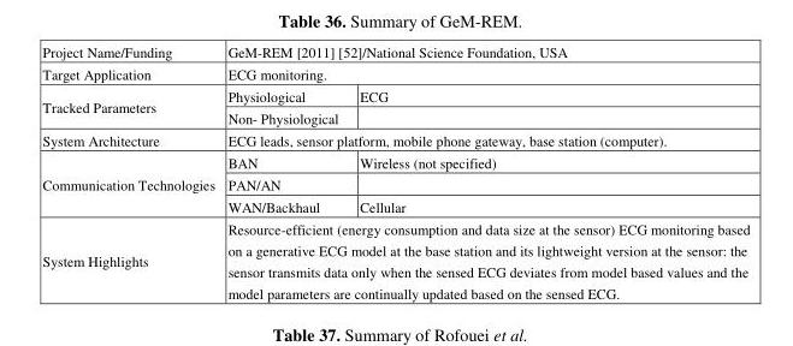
<table><tbody><tr><td>Project Name/Funding</td><td colspan="2">GeM-REM [2011] [52]/National Science Foundation, USA</td></tr><tr><td>Target Application</td><td colspan="2">ECG monitoring.</td></tr><tr><td rowspan="2">Tracked Parameters</td><td>Physiological</td><td>ECG</td></tr><tr><td>Non- Physiological</td><td></td></tr><tr><td>System Architecture</td><td colspan="2">ECG leads, sensor platform, mobile phone gateway, base station (computer).</td></tr><tr><td rowspan="3">Communication Technologies</td><td>BAN</td><td>Wireless (not specified)</td></tr><tr><td>PAN/AN</td><td></td></tr><tr><td>WAN/Backhaul</td><td>Cellular</td></tr><tr><td>System Highlights</td><td colspan="2">Resource-efficient (energy consumption and data size at the sensor) ECG monitoring based on a generative ECG model at the base station and its lightweight version at the sensor: the sensor transmits data only when the sensed ECG deviates from model based values and the model parameters are continually updated based on the sensed ECG.</td></tr></tbody></table>